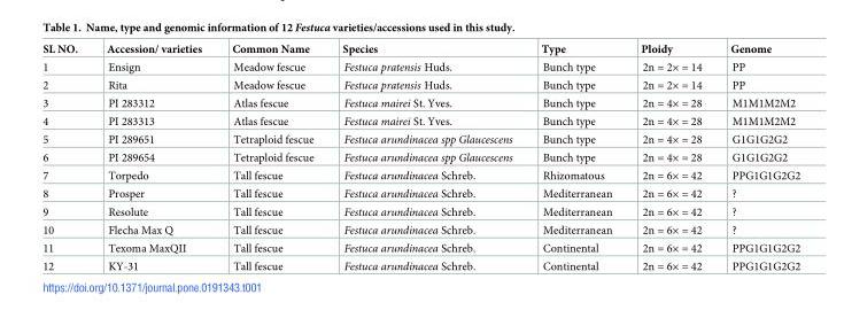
<table><thead><tr><td>SL NO.</td><td>Accession/ varieties</td><td>Common Name</td><td>Species</td><td>Type</td><td>Ploidy</td><td>Genome</td></tr></thead><tbody><tr><td>1</td><td>Ensign</td><td>Meadow fescue</td><td>Festuca pratensis Huds.</td><td>Bunch type</td><td>2n = 2× = 14</td><td>PP</td></tr><tr><td>2</td><td>Rita</td><td>Meadow fescue</td><td>Festuca pratensis Huds.</td><td>Bunch type</td><td>2n = 2× = 14</td><td>PP</td></tr><tr><td>3</td><td>PI 283312</td><td>Atlas fescue</td><td>Festuca mairei St. Yves.</td><td>Bunch type</td><td>2n = 4× = 28</td><td>M1M1M2M2</td></tr><tr><td>4</td><td>PI 283313</td><td>Atlas fescue</td><td>Festuca mairei St. Yves.</td><td>Bunch type</td><td>2n = 4× = 28</td><td>M1M1M2M2</td></tr><tr><td>5</td><td>PI 289651</td><td>Tetraploid fescue</td><td>Festuca arundinacea spp Glaucescens</td><td>Bunch type</td><td>2n = 4× = 28</td><td>G1G1G2G2</td></tr><tr><td>6</td><td>PI 289654</td><td>Tetraploid fescue</td><td>Festuca arundinacea spp Glaucescens</td><td>Bunch type</td><td>2n = 4× = 28</td><td>G1G1G2G2</td></tr><tr><td>7</td><td>Torpedo</td><td>Tall fescue</td><td>Festuca arundinacea Schreb.</td><td>Rhizomatous</td><td>2n = 6× = 42</td><td>PPG1G1G2G2</td></tr><tr><td>8</td><td>Prosper</td><td>Tall fescue</td><td>Festuca arundinacea Schreb.</td><td>Mediterranean</td><td>2n = 6× = 42</td><td>?</td></tr><tr><td>9</td><td>Resolute</td><td>Tall fescue</td><td>Festuca arundinacea Schreb.</td><td>Mediterranean</td><td>2n = 6× = 42</td><td>?</td></tr><tr><td>10</td><td>Flecha Max Q</td><td>Tall fescue</td><td>Festuca arundinacea Schreb.</td><td>Mediterranean</td><td>2n = 6× = 42</td><td>?</td></tr><tr><td>11</td><td>Texoma MaxQII</td><td>Tall fescue</td><td>Festuca arundinacea Schreb.</td><td>Continental</td><td>2n = 6× = 42</td><td>PPG1G1G2G2</td></tr><tr><td>12</td><td>KY-31</td><td>Tall fescue</td><td>Festuca arundinacea Schreb.</td><td>Continental</td><td>2n = 6× = 42</td><td>PPG1G1G2G2</td></tr></tbody></table>